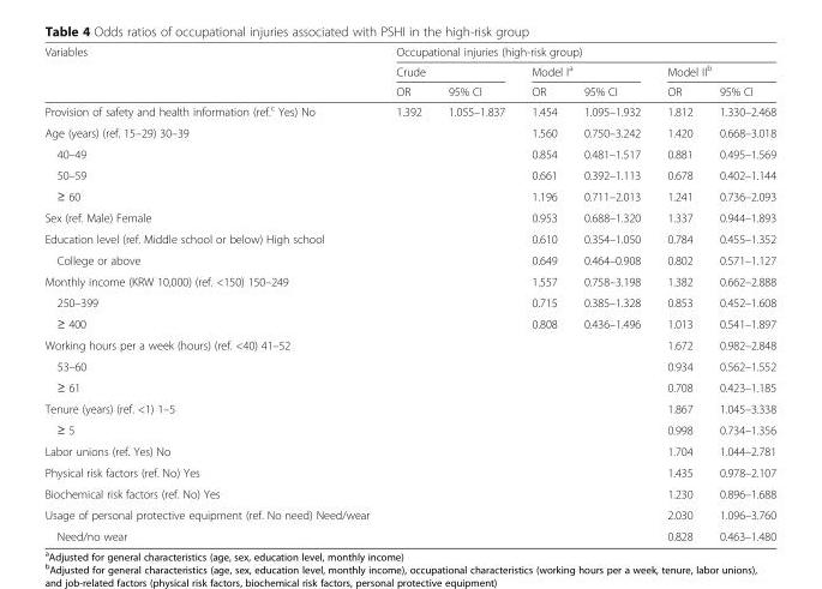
<table><thead><tr><td rowspan="3">Variables</td><td colspan="6">Occupational injuries (high-risk group)</td></tr><tr><td colspan="2">Crude</td><td colspan="2">Model I<sup>a</sup></td><td colspan="2">Model II<sup>b</sup></td></tr><tr><td>OR</td><td>95% CI</td><td>OR</td><td>95% CI</td><td>OR</td><td>95% CI</td></tr></thead><tbody><tr><td>Provision of safety and health information (ref.<sup>c</sup> Yes) No</td><td>1.392</td><td>1.055–1.837</td><td>1.454</td><td>1.095–1.932</td><td>1.812</td><td>1.330–2.468</td></tr><tr><td>Age (years) (ref. 15–29) 30–39</td><td></td><td></td><td>1.560</td><td>0.750–3.242</td><td>1.420</td><td>0.668–3.018</td></tr><tr><td>40–49</td><td></td><td></td><td>0.854</td><td>0.481–1.517</td><td>0.881</td><td>0.495–1.569</td></tr><tr><td>50–59</td><td></td><td></td><td>0.661</td><td>0.392–1.113</td><td>0.678</td><td>0.402–1.144</td></tr><tr><td>≥ 60</td><td></td><td></td><td>1.196</td><td>0.711–2.013</td><td>1.241</td><td>0.736–2.093</td></tr><tr><td>Sex (ref. Male) Female</td><td></td><td></td><td>0.953</td><td>0.688–1.320</td><td>1.337</td><td>0.944–1.893</td></tr><tr><td>Education level (ref. Middle school or below) High school</td><td></td><td></td><td>0.610</td><td>0.354–1.050</td><td>0.784</td><td>0.455–1.352</td></tr><tr><td>College or above</td><td></td><td></td><td>0.649</td><td>0.464–0.908</td><td>0.802</td><td>0.571–1.127</td></tr><tr><td>Monthly income (KRW 10,000) (ref. &lt;150) 150–249</td><td></td><td></td><td>1.557</td><td>0.758–3.198</td><td>1.382</td><td>0.662–2.888</td></tr><tr><td>250–399</td><td></td><td></td><td>0.715</td><td>0.385–1.328</td><td>0.853</td><td>0.452–1.608</td></tr><tr><td>≥ 400</td><td></td><td></td><td>0.808</td><td>0.436–1.496</td><td>1.013</td><td>0.541–1.897</td></tr><tr><td>Working hours per a week (hours) (ref. &lt;40) 41–52</td><td></td><td></td><td></td><td></td><td>1.672</td><td>0.982–2.848</td></tr><tr><td>53–60</td><td></td><td></td><td></td><td></td><td>0.934</td><td>0.562–1.552</td></tr><tr><td>≥ 61</td><td></td><td></td><td></td><td></td><td>0.708</td><td>0.423–1.185</td></tr><tr><td>Tenure (years) (ref. &lt;1) 1–5</td><td></td><td></td><td></td><td></td><td>1.867</td><td>1.045–3.338</td></tr><tr><td>≥ 5</td><td></td><td></td><td></td><td></td><td>0.998</td><td>0.734–1.356</td></tr><tr><td>Labor unions (ref. Yes) No</td><td></td><td></td><td></td><td></td><td>1.704</td><td>1.044–2.781</td></tr><tr><td>Physical risk factors (ref. No) Yes</td><td></td><td></td><td></td><td></td><td>1.435</td><td>0.978–2.107</td></tr><tr><td>Biochemical risk factors (ref. No) Yes</td><td></td><td></td><td></td><td></td><td>1.230</td><td>0.896–1.688</td></tr><tr><td>Usage of personal protective equipment (ref. No need) Need/wear</td><td></td><td></td><td></td><td></td><td>2.030</td><td>1.096–3.760</td></tr><tr><td>Need/no wear</td><td></td><td></td><td></td><td></td><td>0.828</td><td>0.463–1.480</td></tr></tbody></table>